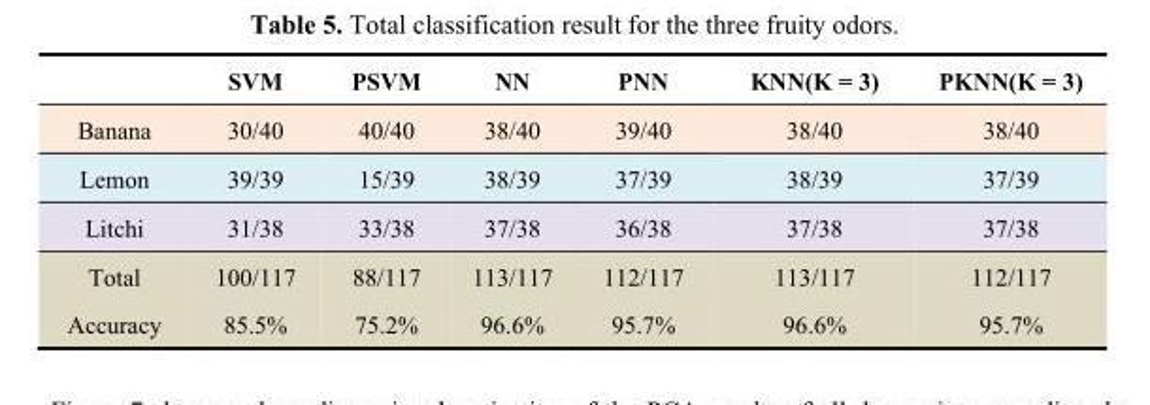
<table><thead><tr><td></td><td>SVM</td><td>PSVM</td><td>NN</td><td>PNN</td><td>KNN(K = 3)</td><td>PKNN(K = 3)</td></tr></thead><tbody><tr><td>Banana</td><td>30/40</td><td>40/40</td><td>38/40</td><td>39/40</td><td>38/40</td><td>38/40</td></tr><tr><td>Lemon</td><td>39/39</td><td>15/39</td><td>38/39</td><td>37/39</td><td>38/39</td><td>37/39</td></tr><tr><td>Litchi</td><td>31/38</td><td>33/38</td><td>37/38</td><td>36/38</td><td>37/38</td><td>37/38</td></tr><tr><td>Total</td><td>100/117</td><td>88/117</td><td>113/117</td><td>112/117</td><td>113/117</td><td>112/117</td></tr><tr><td>Accuracy</td><td>85.5%</td><td>75.2%</td><td>96.6%</td><td>95.7%</td><td>96.6%</td><td>95.7%</td></tr></tbody></table>